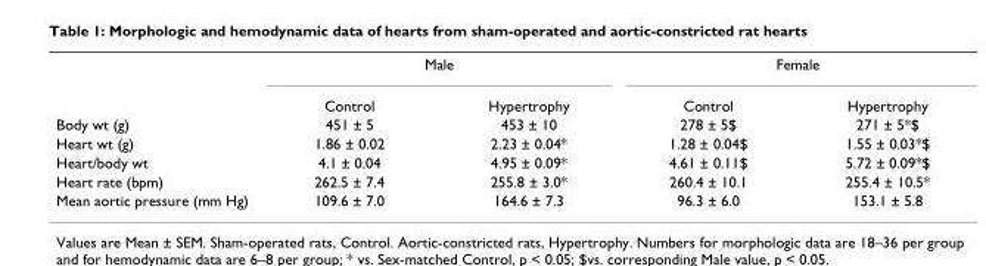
<table><thead><tr><td rowspan="2"></td><td colspan="2">Male</td><td colspan="2">Female</td></tr><tr><td>Control</td><td>Hypertrophy</td><td>Control</td><td>Hypertrophy</td></tr></thead><tbody><tr><td>Body wt (g)</td><td>451 ± 5</td><td>453 ± 10</td><td>278 ± 5$</td><td>271 ± 5*$</td></tr><tr><td>Heart wt (g)</td><td>1.86 ± 0.02</td><td>2.23 ± 0.04*</td><td>1.28 ± 0.04$</td><td>1.55 ± 0.03*$</td></tr><tr><td>Heart/body wt</td><td>4.1 ± 0.04</td><td>4.95 ± 0.09*</td><td>4.61 ± 0.11$</td><td>5.72 ± 0.09*$</td></tr><tr><td>Heart rate (bpm)</td><td>262.5 ± 7.4</td><td>255.8 ± 3.0*</td><td>260.4 ± 10.1</td><td>255.4 ± 10.5*</td></tr><tr><td>Mean aortic pressure (mm Hg)</td><td>109.6 ± 7.0</td><td>164.6 ± 7.3</td><td>96.3 ± 6.0</td><td>153.1 ± 5.8</td></tr></tbody></table>